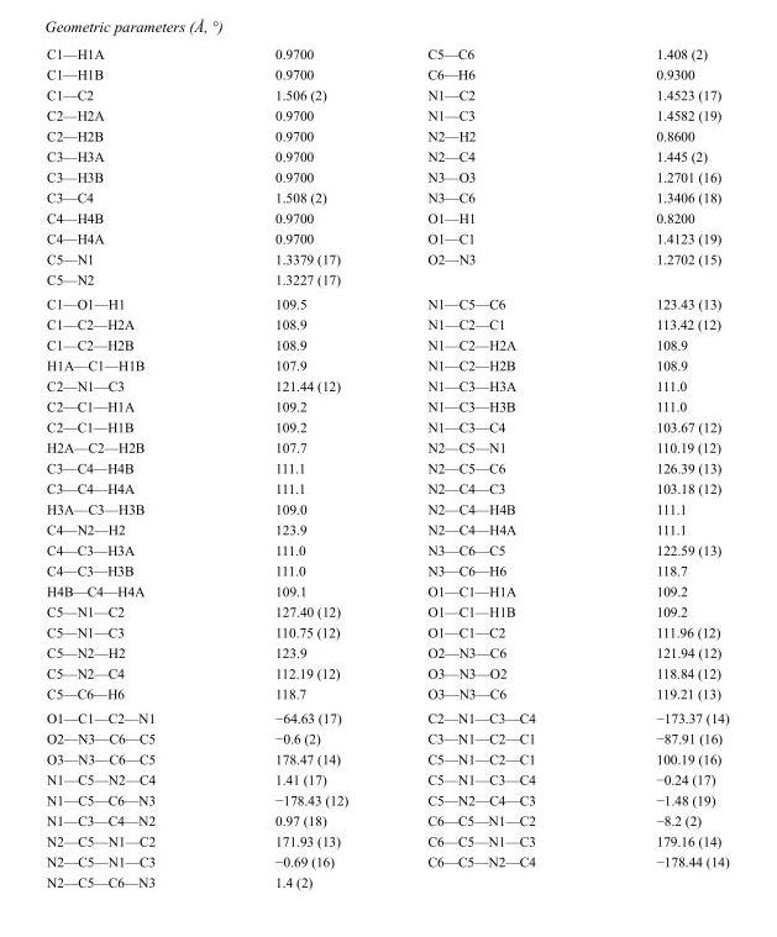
<table><tbody><tr><td>C1—H1A</td><td>0.9700</td><td>C5—C6</td><td>1.408 (2)</td></tr><tr><td>C1—H1B</td><td>0.9700</td><td>C6—H6</td><td>0.9300</td></tr><tr><td>C1—C2</td><td>1.506 (2)</td><td>N1—C2</td><td>1.4523 (17)</td></tr><tr><td>C2—H2A</td><td>0.9700</td><td>N1—C3</td><td>1.4582 (19)</td></tr><tr><td>C2—H2B</td><td>0.9700</td><td>N2—H2</td><td>0.8600</td></tr><tr><td>C3—H3A</td><td>0.9700</td><td>N2—C4</td><td>1.445 (2)</td></tr><tr><td>C3—H3B</td><td>0.9700</td><td>N3—O3</td><td>1.2701 (16)</td></tr><tr><td>C3—C4</td><td>1.508 (2)</td><td>N3—C6</td><td>1.3406 (18)</td></tr><tr><td>C4—H4B</td><td>0.9700</td><td>O1—H1</td><td>0.8200</td></tr><tr><td>C4—H4A</td><td>0.9700</td><td>O1—C1</td><td>1.4123 (19)</td></tr><tr><td>C5—N1</td><td>1.3379 (17)</td><td>O2—N3</td><td>1.2702 (15)</td></tr><tr><td>C5—N2</td><td>1.3227 (17)</td><td></td><td></td></tr><tr><td>C1—O1—H1</td><td>109.5</td><td>N1—C5—C6</td><td>123.43 (13)</td></tr><tr><td>C1—C2—H2A</td><td>108.9</td><td>N1—C2—C1</td><td>113.42 (12)</td></tr><tr><td>C1—C2—H2B</td><td>108.9</td><td>N1—C2—H2A</td><td>108.9</td></tr><tr><td>H1A—C1—H1B</td><td>107.9</td><td>N1—C2—H2B</td><td>108.9</td></tr><tr><td>C2—N1—C3</td><td>121.44 (12)</td><td>N1—C3—H3A</td><td>111.0</td></tr><tr><td>C2—C1—H1A</td><td>109.2</td><td>N1—C3—H3B</td><td>111.0</td></tr><tr><td>C2—C1—H1B</td><td>109.2</td><td>N1—C3—C4</td><td>103.67 (12)</td></tr><tr><td>H2A—C2—H2B</td><td>107.7</td><td>N2—C5—N1</td><td>110.19 (12)</td></tr><tr><td>C3—C4—H4B</td><td>111.1</td><td>N2—C5—C6</td><td>126.39 (13)</td></tr><tr><td>C3—C4—H4A</td><td>111.1</td><td>N2—C4—C3</td><td>103.18 (12)</td></tr><tr><td>H3A—C3—H3B</td><td>109.0</td><td>N2—C4—H4B</td><td>111.1</td></tr><tr><td>C4—N2—H2</td><td>123.9</td><td>N2—C4—H4A</td><td>111.1</td></tr><tr><td>C4—C3—H3A</td><td>111.0</td><td>N3—C6—C5</td><td>122.59 (13)</td></tr><tr><td>C4—C3—H3B</td><td>111.0</td><td>N3—C6—H6</td><td>118.7</td></tr><tr><td>H4B—C4—H4A</td><td>109.1</td><td>O1—C1—H1A</td><td>109.2</td></tr><tr><td>C5—N1—C2</td><td>127.40 (12)</td><td>O1—C1—H1B</td><td>109.2</td></tr><tr><td>C5—N1—C3</td><td>110.75 (12)</td><td>O1—C1—C2</td><td>111.96 (12)</td></tr><tr><td>C5—N2—H2</td><td>123.9</td><td>O2—N3—C6</td><td>121.94 (12)</td></tr><tr><td>C5—N2—C4</td><td>112.19 (12)</td><td>O3—N3—O2</td><td>118.84 (12)</td></tr><tr><td>C5—C6—H6</td><td>118.7</td><td>O3—N3—C6</td><td>119.21 (13)</td></tr><tr><td>O1—C1—C2—N1</td><td>−64.63 (17)</td><td>C2—N1—C3—C4</td><td>−173.37 (14)</td></tr><tr><td>O2—N3—C6—C5</td><td>−0.6 (2)</td><td>C3—N1—C2—C1</td><td>−87.91 (16)</td></tr><tr><td>O3—N3—C6—C5</td><td>178.47 (14)</td><td>C5—N1—C2—C1</td><td>100.19 (16)</td></tr><tr><td>N1—C5—N2—C4</td><td>1.41 (17)</td><td>C5—N1—C3—C4</td><td>−0.24 (17)</td></tr><tr><td>N1—C5—C6—N3</td><td>−178.43 (12)</td><td>C5—N2—C4—C3</td><td>−1.48 (19)</td></tr><tr><td>N1—C3—C4—N2</td><td>0.97 (18)</td><td>C6—C5—N1—C2</td><td>−8.2 (2)</td></tr><tr><td>N2—C5—N1—C2</td><td>171.93 (13)</td><td>C6—C5—N1—C3</td><td>179.16 (14)</td></tr><tr><td>N2—C5—N1—C3</td><td>−0.69 (16)</td><td>C6—C5—N2—C4</td><td>−178.44 (14)</td></tr><tr><td>N2—C5—C6—N3</td><td>1.4 (2)</td><td></td><td></td></tr></tbody></table>